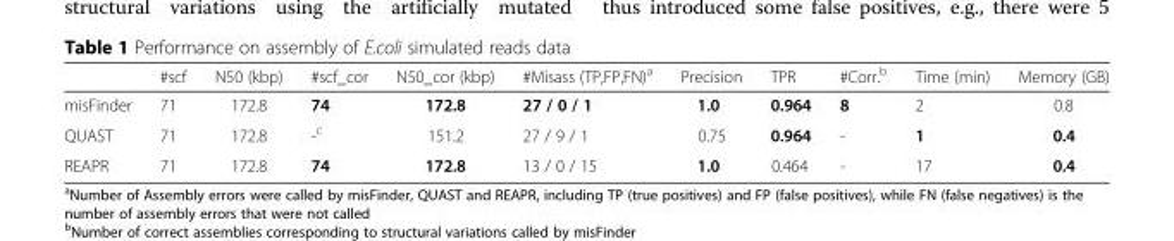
<table><thead><tr><td></td><td>#scf</td><td>N50 (kbp)</td><td>#scf_cor</td><td>N50_cor (kbp)</td><td>#Misass (TP,FP,FN)<sup>a</sup></td><td>Precision</td><td>TPR</td><td>#Corr.<sup>b</sup></td><td>Time (min)</td><td>Memory (GB)</td></tr></thead><tbody><tr><td>misFinder</td><td>71</td><td>172.8</td><td>74</td><td>172.8</td><td>27 / 0 / 1</td><td>1.0</td><td>0.964</td><td>8</td><td>2</td><td>0.8</td></tr><tr><td>QUAST</td><td>71</td><td>172.8</td><td>-<sup>c</sup></td><td>151.2</td><td>27 / 9 / 1</td><td>0.75</td><td>0.964</td><td>-</td><td>1</td><td>0.4</td></tr><tr><td>REAPR</td><td>71</td><td>172.8</td><td>74</td><td>172.8</td><td>13 / 0 / 15</td><td>1.0</td><td>0.464</td><td>-</td><td>17</td><td>0.4</td></tr></tbody></table>